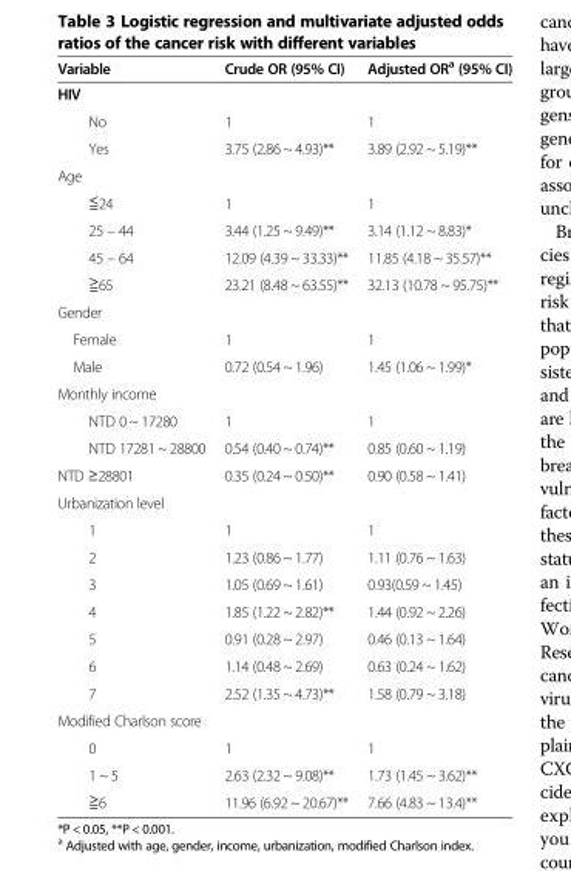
<table><thead><tr><td>Variable</td><td>Crude OR (95% CI)</td><td>Adjusted OR<sup>a</sup> (95% CI)</td></tr></thead><tbody><tr><td colspan="3">HIV</td></tr><tr><td>No</td><td>1</td><td>1</td></tr><tr><td>Yes</td><td>3.75 (2.86 ~ 4.93)**</td><td>3.89 (2.92 ~ 5.19)**</td></tr><tr><td colspan="3">Age</td></tr><tr><td>≦24</td><td>1</td><td>1</td></tr><tr><td>25 – 44</td><td>3.44 (1.25 ~ 9.49)**</td><td>3.14 (1.12 ~ 8.83)*</td></tr><tr><td>45 – 64</td><td>12.09 (4.39 ~ 33.33)**</td><td>11.85 (4.18 ~ 35.57)**</td></tr><tr><td>≧65</td><td>23.21 (8.48 ~ 63.55)**</td><td>32.13 (10.78 ~ 95.75)**</td></tr><tr><td colspan="3">Gender</td></tr><tr><td>Female</td><td>1</td><td>1</td></tr><tr><td>Male</td><td>0.72 (0.54 ~ 1.96)</td><td>1.45 (1.06 ~ 1.99)*</td></tr><tr><td colspan="3">Monthly income</td></tr><tr><td>NTD 0 ~ 17280</td><td>1</td><td>1</td></tr><tr><td>NTD 17281 ~ 28800</td><td>0.54 (0.40 ~ 0.74)**</td><td>0.85 (0.60 ~ 1.19)</td></tr><tr><td>NTD ≥28801</td><td>0.35 (0.24 ~ 0.50)**</td><td>0.90 (0.58 ~ 1.41)</td></tr><tr><td colspan="3">Urbanization level</td></tr><tr><td>1</td><td>1</td><td>1</td></tr><tr><td>2</td><td>1.23 (0.86 ~ 1.77)</td><td>1.11 (0.76 ~ 1.63)</td></tr><tr><td>3</td><td>1.05 (0.69 ~ 1.61)</td><td>0.93(0.59 ~ 1.45)</td></tr><tr><td>4</td><td>1.85 (1.22 ~ 2.82)**</td><td>1.44 (0.92 ~ 2.26)</td></tr><tr><td>5</td><td>0.91 (0.28 ~ 2.97)</td><td>0.46 (0.13 ~ 1.64)</td></tr><tr><td>6</td><td>1.14 (0.48 ~ 2.69)</td><td>0.63 (0.24 ~ 1.62)</td></tr><tr><td>7</td><td>2.52 (1.35 ~ 4.73)**</td><td>1.58 (0.79 ~ 3.18)</td></tr><tr><td colspan="3">Modified Charlson score</td></tr><tr><td>0</td><td>1</td><td>1</td></tr><tr><td>1 ~ 5</td><td>2.63 (2.32 ~ 9.08)**</td><td>1.73 (1.45 ~ 3.62)**</td></tr><tr><td>≧6</td><td>11.96 (6.92 ~ 20.67)**</td><td>7.66 (4.83 ~ 13.4)**</td></tr></tbody></table>